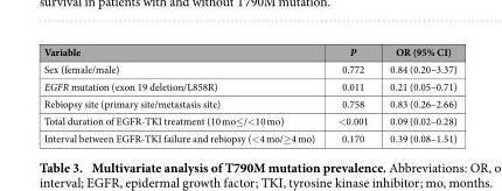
<table><thead><tr><td>Variable</td><td>P</td><td>OR (95% CI)</td></tr></thead><tbody><tr><td>Sex (female/male)</td><td>0.772</td><td>0.84 (0.20–3.37)</td></tr><tr><td>EGFR mutation (exon 19 deletion/L858R)</td><td>0.011</td><td>0.21 (0.05–0.71)</td></tr><tr><td>Rebiopsy site (primary site/metastasis site)</td><td>0.758</td><td>0.83 (0.26–2.66)</td></tr><tr><td>Total duration of EGFR-TKI treatment (10 mo≤ /&lt; 10 mo)</td><td>&lt; 0.001</td><td>0.09 (0.02–0.28)</td></tr><tr><td>Interval between EGFR-TKI failure and rebiopsy (&lt; 4 mo/≥ 4 mo)</td><td>0.170</td><td>0.39 (0.08–1.51)</td></tr></tbody></table>